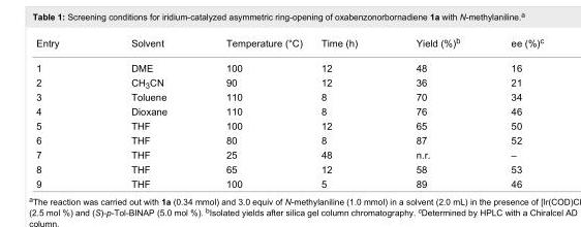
<table><tbody><tr><td>Entry</td><td>Solvent</td><td>Temperature (°C)</td><td>Time (h)</td><td>Yield (%)<sup>b</sup></td><td>ee (%)<sup>c</sup></td></tr><tr><td>1</td><td>DME</td><td>100</td><td>12</td><td>48</td><td>16</td></tr><tr><td>2</td><td>CH<sub>3</sub>CN</td><td>90</td><td>12</td><td>36</td><td>21</td></tr><tr><td>3</td><td>Toluene</td><td>110</td><td>8</td><td>70</td><td>34</td></tr><tr><td>4</td><td>Dioxane</td><td>110</td><td>8</td><td>76</td><td>46</td></tr><tr><td>5</td><td>THF</td><td>100</td><td>12</td><td>65</td><td>50</td></tr><tr><td>6</td><td>THF</td><td>80</td><td>8</td><td>87</td><td>52</td></tr><tr><td>7</td><td>THF</td><td>25</td><td>48</td><td>n.r.</td><td>–</td></tr><tr><td>8</td><td>THF</td><td>65</td><td>12</td><td>58</td><td>53</td></tr><tr><td>9</td><td>THF</td><td>100</td><td>5</td><td>89</td><td>46</td></tr></tbody></table>